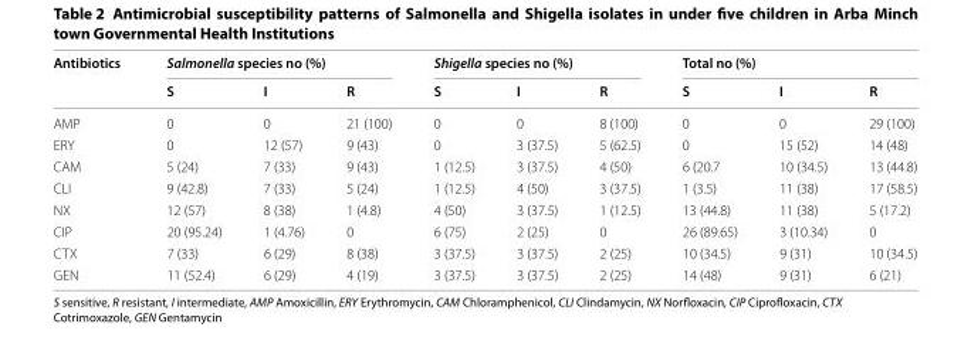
<table><thead><tr><td rowspan="2">Antibiotics</td><td colspan="3">Salmonella species no (%)</td><td colspan="3">Shigella species no (%)</td><td colspan="3">Total no (%)</td></tr><tr><td>S</td><td>I</td><td>R</td><td>S</td><td>I</td><td>R</td><td>S</td><td>I</td><td>R</td></tr></thead><tbody><tr><td>AMP</td><td>0</td><td>0</td><td>21 (100)</td><td>0</td><td>0</td><td>8 (100)</td><td>0</td><td>0</td><td>29 (100)</td></tr><tr><td>ERY</td><td>0</td><td>12 (57)</td><td>9 (43)</td><td>0</td><td>3 (37.5)</td><td>5 (62.5)</td><td>0</td><td>15 (52)</td><td>14 (48)</td></tr><tr><td>CAM</td><td>5 (24)</td><td>7 (33)</td><td>9 (43)</td><td>1 (12.5)</td><td>3 (37.5)</td><td>4 (50)</td><td>6 (20.7</td><td>10 (34.5)</td><td>13 (44.8)</td></tr><tr><td>CLI</td><td>9 (42.8)</td><td>7 (33)</td><td>5 (24)</td><td>1 (12.5)</td><td>4 (50)</td><td>3 (37.5)</td><td>1 (3.5)</td><td>11 (38)</td><td>17 (58.5)</td></tr><tr><td>NX</td><td>12 (57)</td><td>8 (38)</td><td>1 (4.8)</td><td>4 (50)</td><td>3 (37.5)</td><td>1 (12.5)</td><td>13 (44.8)</td><td>11 (38)</td><td>5 (17.2)</td></tr><tr><td>CIP</td><td>20 (95.24)</td><td>1 (4.76)</td><td>0</td><td>6 (75)</td><td>2 (25)</td><td>0</td><td>26 (89.65)</td><td>3 (10.34)</td><td>0</td></tr><tr><td>CTX</td><td>7 (33)</td><td>6 (29)</td><td>8 (38)</td><td>3 (37.5)</td><td>3 (37.5)</td><td>2 (25)</td><td>10 (34.5)</td><td>9 (31)</td><td>10 (34.5)</td></tr><tr><td>GEN</td><td>11 (52.4)</td><td>6 (29)</td><td>4 (19)</td><td>3 (37.5)</td><td>3 (37.5)</td><td>2 (25)</td><td>14 (48)</td><td>9 (31)</td><td>6 (21)</td></tr></tbody></table>